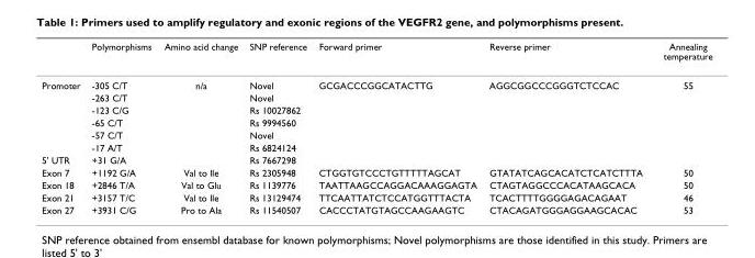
<table><thead><tr><td></td><td>Polymorphisms</td><td>Amino acid change</td><td>SNP reference</td><td>Forward primer</td><td>Reverse primer</td><td>Annealing temperature</td></tr></thead><tbody><tr><td rowspan="6">Promoter</td><td>-305 C/T</td><td>n/a</td><td>Novel</td><td>GCGACCCGGCATACTTG</td><td>AGGCGGCCCGGGTCTCCAC</td><td>55</td></tr><tr><td>-263 C/T</td><td></td><td>Novel</td><td></td><td></td><td></td></tr><tr><td>-123 C/G</td><td></td><td>Rs 10027862</td><td></td><td></td><td></td></tr><tr><td>-65 C/T</td><td></td><td>Rs 9994560</td><td></td><td></td><td></td></tr><tr><td>-57 C/T</td><td></td><td>Novel</td><td></td><td></td><td></td></tr><tr><td>-17 A/T</td><td></td><td>Rs 6824124</td><td></td><td></td><td></td></tr><tr><td>5&#x27; UTR</td><td>+31 G/A</td><td></td><td>Rs 7667298</td><td></td><td></td><td></td></tr><tr><td>Exon 7</td><td>+1192 G/A</td><td>Val to Ile</td><td>Rs 2305948</td><td>CTGGTGTCCCTGTTTTTAGCAT</td><td>GTATATCAGCACATCTCATCTTTA</td><td>50</td></tr><tr><td>Exon 18</td><td>+2846 T/A</td><td>Val to Glu</td><td>Rs 1139776</td><td>TAATTAAGCCAGGACAAAGGAGTA</td><td>CTAGTAGGCCCACATAAGCACA</td><td>50</td></tr><tr><td>Exon 21</td><td>+3157 T/C</td><td>Val to Ile</td><td>Rs 13129474</td><td>TTCAATTATCTCCATGGTTTACTA</td><td>TCACTTTTGGGGAGACAGAAT</td><td>46</td></tr><tr><td>Exon 27</td><td>+3931 C/G</td><td>Pro to Ala</td><td>Rs 11540507</td><td>CACCCTATGTAGCCAAGAAGTC</td><td>CTACAGATGGGAGGAAGCACAC</td><td>53</td></tr></tbody></table>